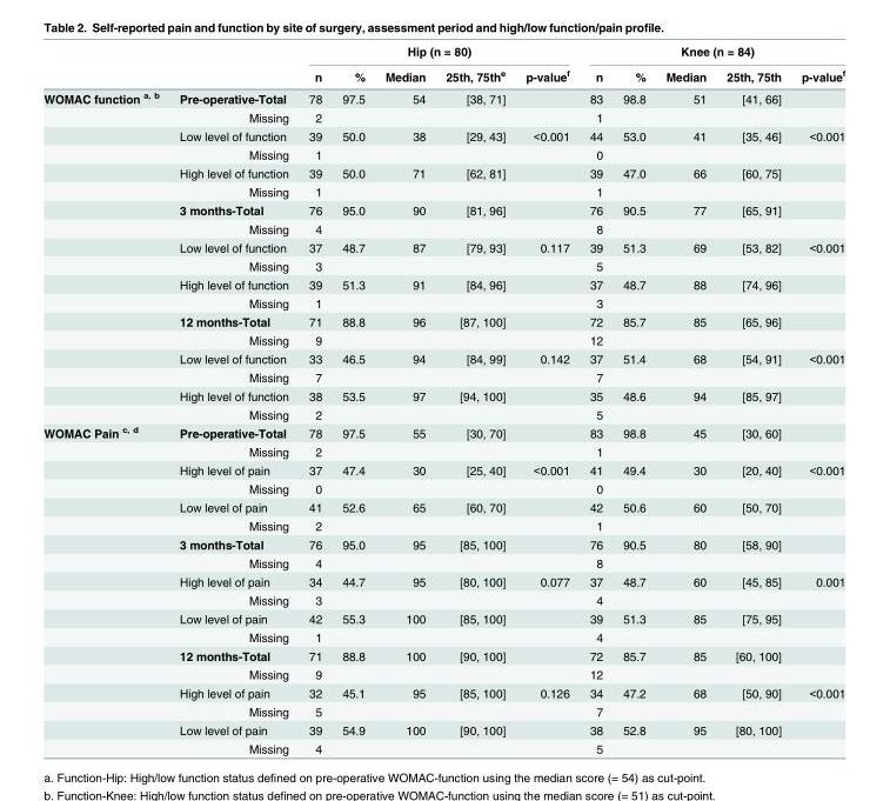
<table><thead><tr><td rowspan="2"></td><td rowspan="2"></td><td colspan="5">Hip (n = 80)</td><td colspan="5">Knee (n = 84)</td></tr><tr><td>n</td><td>%</td><td>Median</td><td>25th, 75th<sup>e</sup></td><td>p-value<sup>f</sup></td><td>n</td><td>%</td><td>Median</td><td>25th, 75th</td><td>p-value<sup>f</sup></td></tr></thead><tbody><tr><td rowspan="18">WOMAC function <sup>a, b</sup></td><td>Pre-operative-Total</td><td>78</td><td>97.5</td><td>54</td><td>[38, 71]</td><td></td><td>83</td><td>98.8</td><td>51</td><td>[41, 66]</td><td></td></tr><tr><td>Missing</td><td>2</td><td></td><td></td><td></td><td></td><td>1</td><td></td><td></td><td></td><td></td></tr><tr><td>Low level of function</td><td>39</td><td>50.0</td><td>38</td><td>[29, 43]</td><td>&lt;0.001</td><td>44</td><td>53.0</td><td>41</td><td>[35, 46]</td><td>&lt;0.001</td></tr><tr><td>Missing</td><td>1</td><td></td><td></td><td></td><td></td><td>0</td><td></td><td></td><td></td><td></td></tr><tr><td>High level of function</td><td>39</td><td>50.0</td><td>71</td><td>[62, 81]</td><td></td><td>39</td><td>47.0</td><td>66</td><td>[60, 75]</td><td></td></tr><tr><td>Missing</td><td>1</td><td></td><td></td><td></td><td></td><td>1</td><td></td><td></td><td></td><td></td></tr><tr><td>3 months-Total</td><td>76</td><td>95.0</td><td>90</td><td>[81, 96]</td><td></td><td>76</td><td>90.5</td><td>77</td><td>[65, 91]</td><td></td></tr><tr><td>Missing</td><td>4</td><td></td><td></td><td></td><td></td><td>8</td><td></td><td></td><td></td><td></td></tr><tr><td>Low level of function</td><td>37</td><td>48.7</td><td>87</td><td>[79, 93]</td><td>0.117</td><td>39</td><td>51.3</td><td>69</td><td>[53, 82]</td><td>&lt;0.001</td></tr><tr><td>Missing</td><td>3</td><td></td><td></td><td></td><td></td><td>5</td><td></td><td></td><td></td><td></td></tr><tr><td>High level of function</td><td>39</td><td>51.3</td><td>91</td><td>[84, 96]</td><td></td><td>37</td><td>48.7</td><td>88</td><td>[74, 96]</td><td></td></tr><tr><td>Missing</td><td>1</td><td></td><td></td><td></td><td></td><td>3</td><td></td><td></td><td></td><td></td></tr><tr><td>12 months-Total</td><td>71</td><td>88.8</td><td>96</td><td>[87, 100]</td><td></td><td>72</td><td>85.7</td><td>85</td><td>[65, 96]</td><td></td></tr><tr><td>Missing</td><td>9</td><td></td><td></td><td></td><td></td><td>12</td><td></td><td></td><td></td><td></td></tr><tr><td>Low level of function</td><td>33</td><td>46.5</td><td>94</td><td>[84, 99]</td><td>0.142</td><td>37</td><td>51.4</td><td>68</td><td>[54, 91]</td><td>&lt;0.001</td></tr><tr><td>Missing</td><td>7</td><td></td><td></td><td></td><td></td><td>7</td><td></td><td></td><td></td><td></td></tr><tr><td>High level of function</td><td>38</td><td>53.5</td><td>97</td><td>[94, 100]</td><td></td><td>35</td><td>48.6</td><td>94</td><td>[85, 97]</td><td></td></tr><tr><td>Missing</td><td>2</td><td></td><td></td><td></td><td></td><td>5</td><td></td><td></td><td></td><td></td></tr><tr><td rowspan="18">WOMAC Pain <sup>c, d</sup></td><td>Pre-operative-Total</td><td>78</td><td>97.5</td><td>55</td><td>[30, 70]</td><td></td><td>83</td><td>98.8</td><td>45</td><td>[30, 60]</td><td></td></tr><tr><td>Missing</td><td>2</td><td></td><td></td><td></td><td></td><td>1</td><td></td><td></td><td></td><td></td></tr><tr><td>High level of pain</td><td>37</td><td>47.4</td><td>30</td><td>[25, 40]</td><td>&lt;0.001</td><td>41</td><td>49.4</td><td>30</td><td>[20, 40]</td><td>&lt;0.001</td></tr><tr><td>Missing</td><td>0</td><td></td><td></td><td></td><td></td><td>0</td><td></td><td></td><td></td><td></td></tr><tr><td>Low level of pain</td><td>41</td><td>52.6</td><td>65</td><td>[60, 70]</td><td></td><td>42</td><td>50.6</td><td>60</td><td>[50, 70]</td><td></td></tr><tr><td>Missing</td><td>2</td><td></td><td></td><td></td><td></td><td>1</td><td></td><td></td><td></td><td></td></tr><tr><td>3 months-Total</td><td>76</td><td>95.0</td><td>95</td><td>[85, 100]</td><td></td><td>76</td><td>90.5</td><td>80</td><td>[58, 90]</td><td></td></tr><tr><td>Missing</td><td>4</td><td></td><td></td><td></td><td></td><td>8</td><td></td><td></td><td></td><td></td></tr><tr><td>High level of pain</td><td>34</td><td>44.7</td><td>95</td><td>[80, 100]</td><td>0.077</td><td>37</td><td>48.7</td><td>60</td><td>[45, 85]</td><td>0.001</td></tr><tr><td>Missing</td><td>3</td><td></td><td></td><td></td><td></td><td>4</td><td></td><td></td><td></td><td></td></tr><tr><td>Low level of pain</td><td>42</td><td>55.3</td><td>100</td><td>[85, 100]</td><td></td><td>39</td><td>51.3</td><td>85</td><td>[75, 95]</td><td></td></tr><tr><td>Missing</td><td>1</td><td></td><td></td><td></td><td></td><td>4</td><td></td><td></td><td></td><td></td></tr><tr><td>12 months-Total</td><td>71</td><td>88.8</td><td>100</td><td>[90, 100]</td><td></td><td>72</td><td>85.7</td><td>85</td><td>[60, 100]</td><td></td></tr><tr><td>Missing</td><td>9</td><td></td><td></td><td></td><td></td><td>12</td><td></td><td></td><td></td><td></td></tr><tr><td>High level of pain</td><td>32</td><td>45.1</td><td>95</td><td>[85, 100]</td><td>0.126</td><td>34</td><td>47.2</td><td>68</td><td>[50, 90]</td><td>&lt;0.001</td></tr><tr><td>Missing</td><td>5</td><td></td><td></td><td></td><td></td><td>7</td><td></td><td></td><td></td><td></td></tr><tr><td>Low level of pain</td><td>39</td><td>54.9</td><td>100</td><td>[90, 100]</td><td></td><td>38</td><td>52.8</td><td>95</td><td>[80, 100]</td><td></td></tr><tr><td>Missing</td><td>4</td><td></td><td></td><td></td><td></td><td>5</td><td></td><td></td><td></td><td></td></tr></tbody></table>